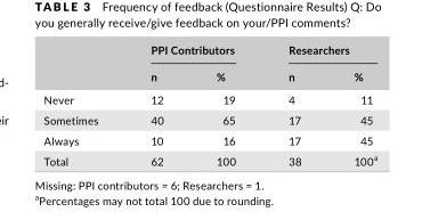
<table><thead><tr><td rowspan="2"></td><td colspan="2">PPI Contributors</td><td colspan="2">Researchers</td></tr><tr><td>n</td><td>%</td><td>n</td><td>%</td></tr></thead><tbody><tr><td>Never</td><td>12</td><td>19</td><td>4</td><td>11</td></tr><tr><td>Sometimes</td><td>40</td><td>65</td><td>17</td><td>45</td></tr><tr><td>Always</td><td>10</td><td>16</td><td>17</td><td>45</td></tr><tr><td>Total</td><td>62</td><td>100</td><td>38</td><td>100<sup>a</sup></td></tr></tbody></table>